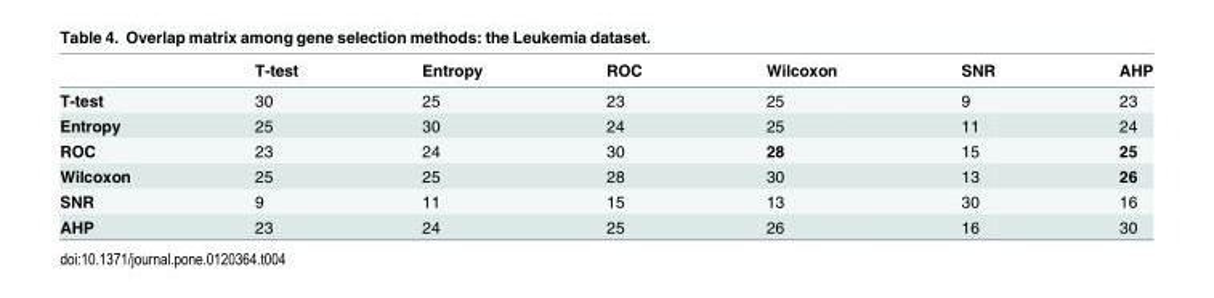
<table><thead><tr><td></td><td>T-test</td><td>Entropy</td><td>ROC</td><td>Wilcoxon</td><td>SNR</td><td>AHP</td></tr></thead><tbody><tr><td>T-test</td><td>30</td><td>25</td><td>23</td><td>25</td><td>9</td><td>23</td></tr><tr><td>Entropy</td><td>25</td><td>30</td><td>24</td><td>25</td><td>11</td><td>24</td></tr><tr><td>ROC</td><td>23</td><td>24</td><td>30</td><td>28</td><td>15</td><td>25</td></tr><tr><td>Wilcoxon</td><td>25</td><td>25</td><td>28</td><td>30</td><td>13</td><td>26</td></tr><tr><td>SNR</td><td>9</td><td>11</td><td>15</td><td>13</td><td>30</td><td>16</td></tr><tr><td>AHP</td><td>23</td><td>24</td><td>25</td><td>26</td><td>16</td><td>30</td></tr></tbody></table>